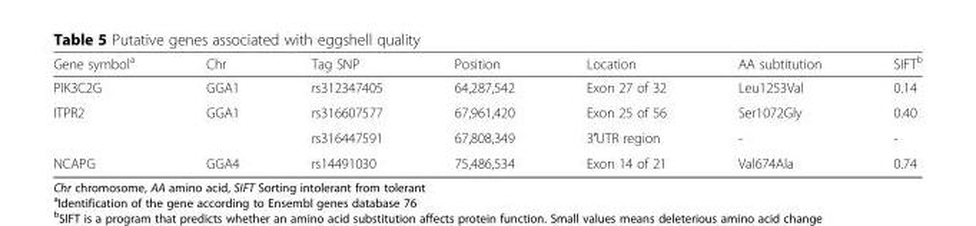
<table><thead><tr><td>Gene symbol<sup>a</sup></td><td>Chr</td><td>Tag SNP</td><td>Position</td><td>Location</td><td>AA subtitution</td><td>SIFT<sup>b</sup></td></tr></thead><tbody><tr><td>PIK3C2G</td><td>GGA1</td><td>rs312347405</td><td>64,287,542</td><td>Exon 27 of 32</td><td>Leu1253Val</td><td>0.14</td></tr><tr><td rowspan="2">ITPR2</td><td rowspan="2">GGA1</td><td>rs316607577</td><td>67,961,420</td><td>Exon 25 of 56</td><td>Ser1072Gly</td><td>0.40</td></tr><tr><td>rs316447591</td><td>67,808,349</td><td>3′UTR region</td><td>-</td><td>-</td></tr><tr><td>NCAPG</td><td>GGA4</td><td>rs14491030</td><td>75,486,534</td><td>Exon 14 of 21</td><td>Val674Ala</td><td>0.74</td></tr></tbody></table>